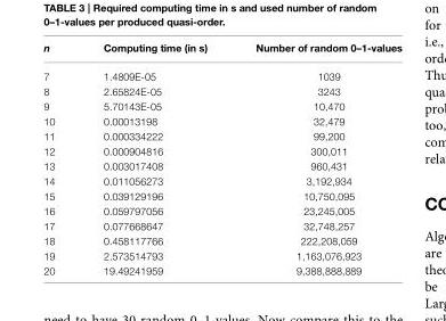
<table><thead><tr><td>n</td><td>Computing time (in s)</td><td>Number of random 0–1-values</td></tr></thead><tbody><tr><td>7</td><td>1.4809E-05</td><td>1039</td></tr><tr><td>8</td><td>2.65824E-05</td><td>3243</td></tr><tr><td>9</td><td>5.70143E-05</td><td>10,470</td></tr><tr><td>10</td><td>0.00013198</td><td>32,479</td></tr><tr><td>11</td><td>0.000334222</td><td>99,200</td></tr><tr><td>12</td><td>0.000904816</td><td>300,011</td></tr><tr><td>13</td><td>0.003017408</td><td>960,431</td></tr><tr><td>14</td><td>0.011056273</td><td>3,192,934</td></tr><tr><td>15</td><td>0.039129196</td><td>10,750,095</td></tr><tr><td>16</td><td>0.059797056</td><td>23,245,005</td></tr><tr><td>17</td><td>0.077668647</td><td>32,748,257</td></tr><tr><td>18</td><td>0.458117766</td><td>222,208,059</td></tr><tr><td>19</td><td>2.573514793</td><td>1,163,076,923</td></tr><tr><td>20</td><td>19.49241959</td><td>9,388,888,889</td></tr></tbody></table>